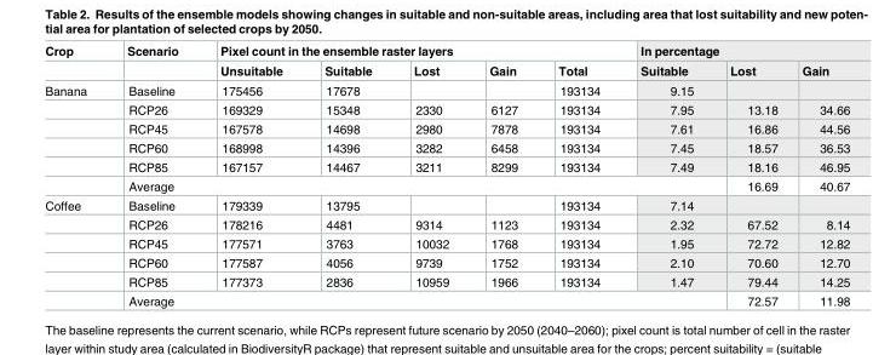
<table><thead><tr><td rowspan="2">Crop</td><td rowspan="2">Scenario</td><td colspan="5">Pixel count in the ensemble raster layers</td><td colspan="3">In percentage</td></tr><tr><td>Unsuitable</td><td>Suitable</td><td>Lost</td><td>Gain</td><td>Total</td><td>Suitable</td><td>Lost</td><td>Gain</td></tr></thead><tbody><tr><td rowspan="6">Banana</td><td>Baseline</td><td>175456</td><td>17678</td><td></td><td></td><td>193134</td><td>9.15</td><td></td><td></td></tr><tr><td>RCP26</td><td>169329</td><td>15348</td><td>2330</td><td>6127</td><td>193134</td><td>7.95</td><td>13.18</td><td>34.66</td></tr><tr><td>RCP45</td><td>167578</td><td>14698</td><td>2980</td><td>7878</td><td>193134</td><td>7.61</td><td>16.86</td><td>44.56</td></tr><tr><td>RCP60</td><td>168998</td><td>14396</td><td>3282</td><td>6458</td><td>193134</td><td>7.45</td><td>18.57</td><td>36.53</td></tr><tr><td>RCP85</td><td>167157</td><td>14467</td><td>3211</td><td>8299</td><td>193134</td><td>7.49</td><td>18.16</td><td>46.95</td></tr><tr><td colspan="7">Average</td><td>16.69</td><td>40.67</td></tr><tr><td rowspan="6">Coffee</td><td>Baseline</td><td>179339</td><td>13795</td><td></td><td></td><td>193134</td><td>7.14</td><td></td><td></td></tr><tr><td>RCP26</td><td>178216</td><td>4481</td><td>9314</td><td>1123</td><td>193134</td><td>2.32</td><td>67.52</td><td>8.14</td></tr><tr><td>RCP45</td><td>177571</td><td>3763</td><td>10032</td><td>1768</td><td>193134</td><td>1.95</td><td>72.72</td><td>12.82</td></tr><tr><td>RCP60</td><td>177587</td><td>4056</td><td>9739</td><td>1752</td><td>193134</td><td>2.10</td><td>70.60</td><td>12.70</td></tr><tr><td>RCP85</td><td>177373</td><td>2836</td><td>10959</td><td>1966</td><td>193134</td><td>1.47</td><td>79.44</td><td>14.25</td></tr><tr><td colspan="7">Average</td><td>72.57</td><td>11.98</td></tr></tbody></table>